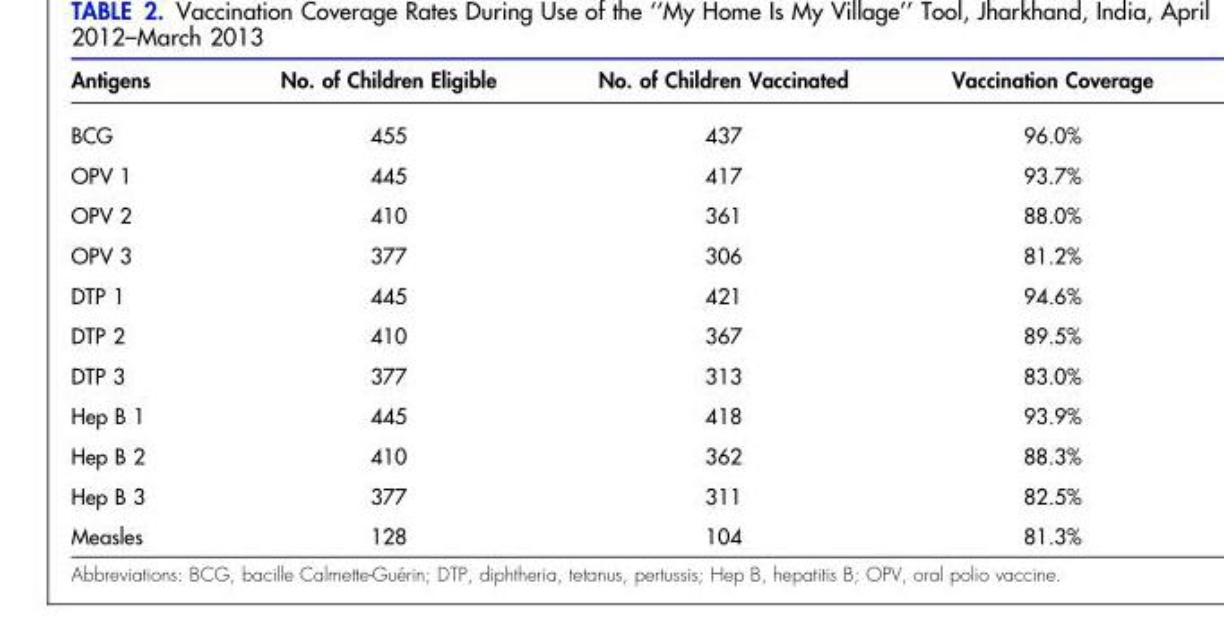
<table><thead><tr><td>Antigens</td><td>No. of Children Eligible</td><td>No. of Children Vaccinated</td><td>Vaccination Coverage</td></tr></thead><tbody><tr><td>BCG</td><td>455</td><td>437</td><td>96.0%</td></tr><tr><td>OPV 1</td><td>445</td><td>417</td><td>93.7%</td></tr><tr><td>OPV 2</td><td>410</td><td>361</td><td>88.0%</td></tr><tr><td>OPV 3</td><td>377</td><td>306</td><td>81.2%</td></tr><tr><td>DTP 1</td><td>445</td><td>421</td><td>94.6%</td></tr><tr><td>DTP 2</td><td>410</td><td>367</td><td>89.5%</td></tr><tr><td>DTP 3</td><td>377</td><td>313</td><td>83.0%</td></tr><tr><td>Hep B 1</td><td>445</td><td>418</td><td>93.9%</td></tr><tr><td>Hep B 2</td><td>410</td><td>362</td><td>88.3%</td></tr><tr><td>Hep B 3</td><td>377</td><td>311</td><td>82.5%</td></tr><tr><td>Measles</td><td>128</td><td>104</td><td>81.3%</td></tr></tbody></table>